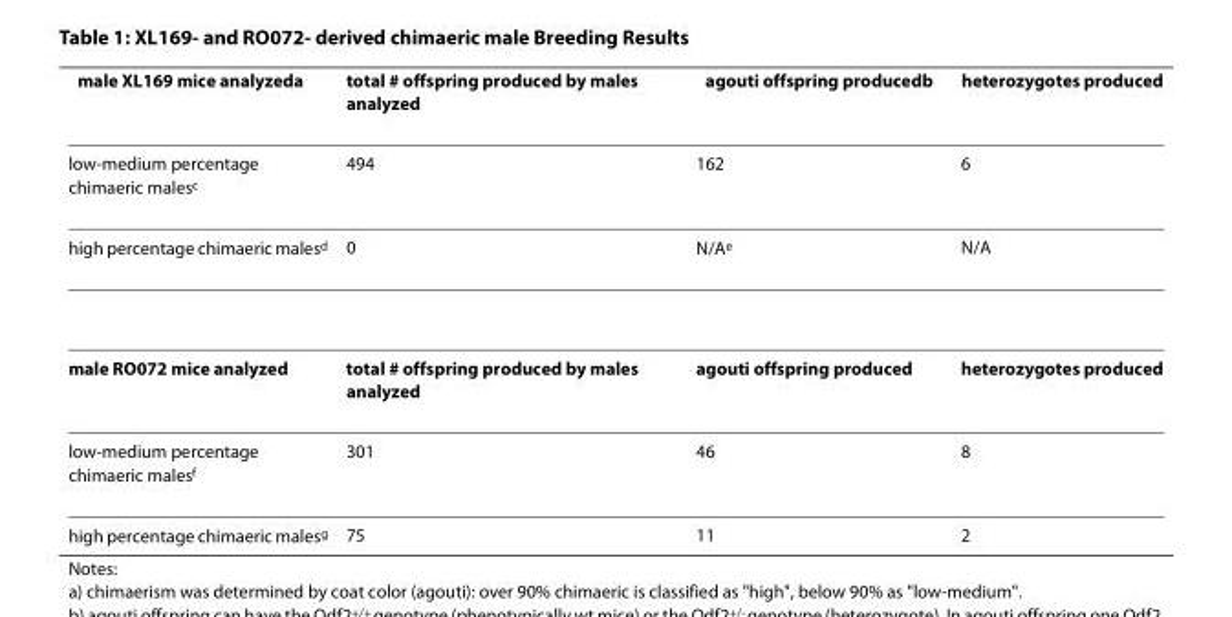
<table><thead><tr><td>male XL169 mice analyzed<sup>a</sup></td><td>total # offspring produced by males analyzed</td><td>agouti offspring produced<sup>b</sup></td><td>heterozygotes produced</td></tr></thead><tbody><tr><td>low-medium percentage chimaeric males<sup>c</sup></td><td>494</td><td>162</td><td>6</td></tr><tr><td>high percentage chimaeric males<sup>d</sup></td><td>0</td><td>N/A<sup>e</sup></td><td>N/A</td></tr><tr><td>male RO072 mice analyzed</td><td>total # offspring produced by males analyzed</td><td>agouti offspring produced</td><td>heterozygotes produced</td></tr><tr><td>low-medium percentage chimaeric malesf</td><td>301</td><td>46</td><td>8</td></tr><tr><td>high percentage chimaeric malesg</td><td>75</td><td>11</td><td>2</td></tr></tbody></table>